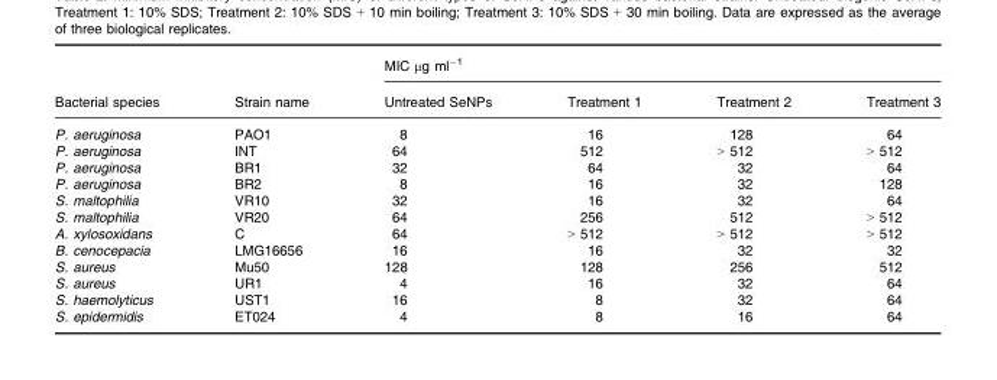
<table><thead><tr><td rowspan="2">Bacterial species</td><td rowspan="2">Strain name</td><td colspan="4">MIC μg ml<sup>−1</sup></td></tr><tr><td>Untreated SeNPs</td><td>Treatment 1</td><td>Treatment 2</td><td>Treatment 3</td></tr></thead><tbody><tr><td>P. aeruginosa</td><td>PAO1</td><td>8</td><td>16</td><td>128</td><td>64</td></tr><tr><td>P. aeruginosa</td><td>INT</td><td>64</td><td>512</td><td>&gt; 512</td><td>&gt; 512</td></tr><tr><td>P. aeruginosa</td><td>BR1</td><td>32</td><td>64</td><td>32</td><td>64</td></tr><tr><td>P. aeruginosa</td><td>BR2</td><td>8</td><td>16</td><td>32</td><td>128</td></tr><tr><td>S. maltophilia</td><td>VR10</td><td>32</td><td>16</td><td>32</td><td>64</td></tr><tr><td>S. maltophilia</td><td>VR20</td><td>64</td><td>256</td><td>512</td><td>&gt; 512</td></tr><tr><td>A. xylosoxidans</td><td>C</td><td>64</td><td>&gt; 512</td><td>&gt; 512</td><td>&gt; 512</td></tr><tr><td>B. cenocepacia</td><td>LMG16656</td><td>16</td><td>16</td><td>32</td><td>32</td></tr><tr><td>S. aureus</td><td>Mu50</td><td>128</td><td>128</td><td>256</td><td>512</td></tr><tr><td>S. aureus</td><td>UR1</td><td>4</td><td>16</td><td>32</td><td>64</td></tr><tr><td>S. haemolyticus</td><td>UST1</td><td>16</td><td>8</td><td>32</td><td>64</td></tr><tr><td>S. epidermidis</td><td>ET024</td><td>4</td><td>8</td><td>16</td><td>64</td></tr></tbody></table>